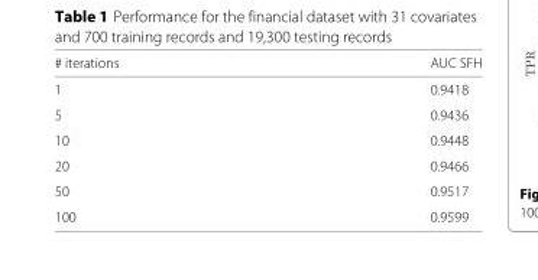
<table><thead><tr><td># iterations</td><td>AUC SFH</td></tr></thead><tbody><tr><td>1</td><td>0.9418</td></tr><tr><td>5</td><td>0.9436</td></tr><tr><td>10</td><td>0.9448</td></tr><tr><td>20</td><td>0.9466</td></tr><tr><td>50</td><td>0.9517</td></tr><tr><td>100</td><td>0.9599</td></tr></tbody></table>